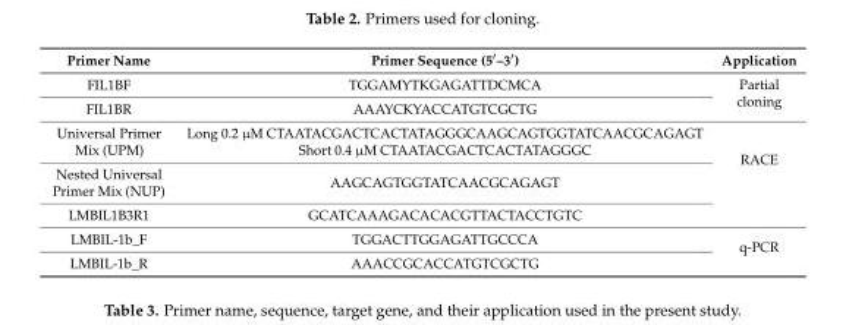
<table><thead><tr><td>Primer Name</td><td>Primer Sequence (5′–3′)</td><td>Application</td></tr></thead><tbody><tr><td>FIL1BF</td><td>TGGAMYTKGAGATTDCMCA</td><td rowspan="2">Partial cloning</td></tr><tr><td>FIL1BR</td><td>AAAYCKYACCATGTCGCTG</td></tr><tr><td rowspan="2">Universal Primer Mix (UPM)</td><td>Long 0.2 µM CTAATACGACTCACTATAGGGCAAGCAGTGGTATCAACGCAGAGT</td><td rowspan="4">RACE</td></tr><tr><td>Short 0.4 µM CTAATACGACTCACTATAGGGC</td></tr><tr><td>Nested Universal Primer Mix (NUP)</td><td>AAGCAGTGGTATCAACGCAGAGT</td></tr><tr><td>LMBIL1B3R1</td><td>GCATCAAAGACACACGTTACTACCTGTC</td></tr><tr><td>LMBIL-1b_F</td><td>TGGACTTGGAGATTGCCCA</td><td rowspan="2">q-PCR</td></tr><tr><td>LMBIL-1b_R</td><td>AAACCGCACCATGTCGCTG</td></tr></tbody></table>